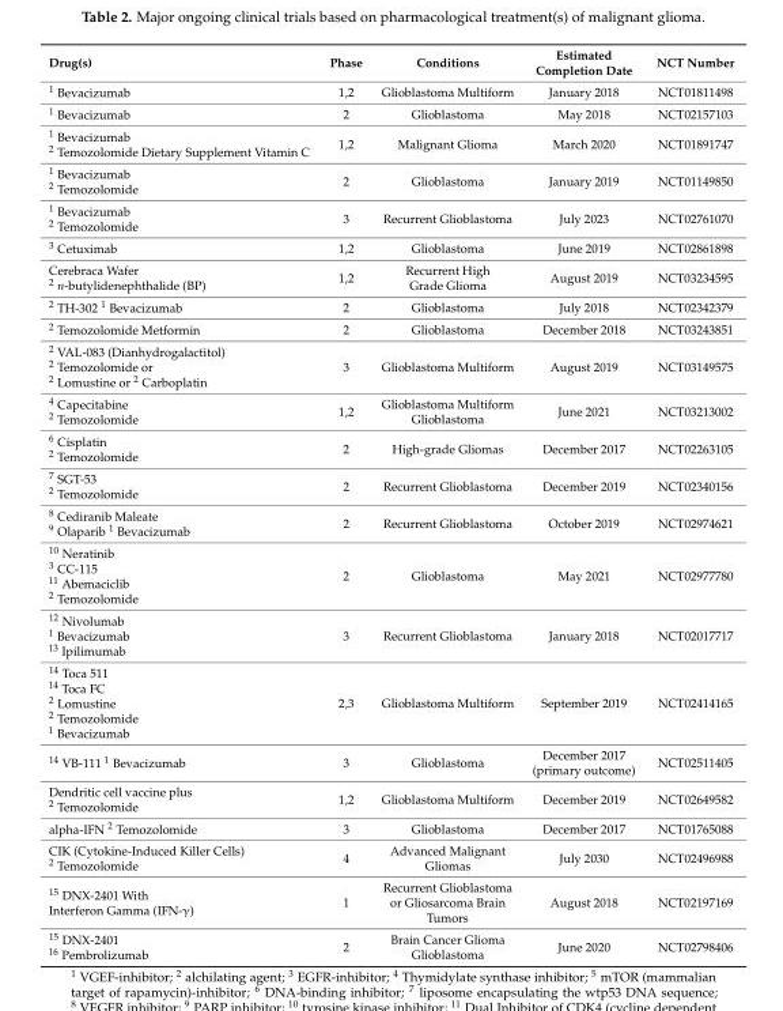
<table><thead><tr><td>Drug(s)</td><td>Phase</td><td>Conditions</td><td>Estimated Completion Date</td><td>NCT Number</td></tr></thead><tbody><tr><td><sup>1</sup> Bevacizumab</td><td>1,2</td><td>Glioblastoma Multiform</td><td>January 2018</td><td>NCT01811498</td></tr><tr><td><sup>1</sup> Bevacizumab</td><td>2</td><td>Glioblastoma</td><td>May 2018</td><td>NCT02157103</td></tr><tr><td><sup>1</sup> Bevacizumab <sup>2</sup> Temozolomide Dietary Supplement Vitamin C</td><td>1,2</td><td>Malignant Glioma</td><td>March 2020</td><td>NCT01891747</td></tr><tr><td><sup>1</sup> Bevacizumab <sup>2</sup> Temozolomide</td><td>2</td><td>Glioblastoma</td><td>January 2019</td><td>NCT01149850</td></tr><tr><td><sup>1</sup> Bevacizumab <sup>2</sup> Temozolomide</td><td>3</td><td>Recurrent Glioblastoma</td><td>July 2023</td><td>NCT02761070</td></tr><tr><td><sup>3</sup> Cetuximab</td><td>1,2</td><td>Glioblastoma</td><td>June 2019</td><td>NCT02861898</td></tr><tr><td>Cerebraca Wafer <sup>2</sup> n-butylidenephthalide (BP)</td><td>1,2</td><td>Recurrent High Grade Glioma</td><td>August 2019</td><td>NCT03234595</td></tr><tr><td><sup>2</sup> TH-302 <sup>1</sup> Bevacizumab</td><td>2</td><td>Glioblastoma</td><td>July 2018</td><td>NCT02342379</td></tr><tr><td><sup>2</sup> Temozolomide Metformin</td><td>2</td><td>Glioblastoma</td><td>December 2018</td><td>NCT03243851</td></tr><tr><td><sup>2</sup> VAL-083 (Dianhydrogalactitol) <sup>2</sup> Temozolomide or <sup>2</sup> Lomustine or <sup>2</sup> Carboplatin</td><td>3</td><td>Glioblastoma Multiform</td><td>August 2019</td><td>NCT03149575</td></tr><tr><td><sup>4</sup> Capecitabine <sup>2</sup> Temozolomide</td><td>1,2</td><td>Glioblastoma Multiform Glioblastoma</td><td>June 2021</td><td>NCT03213002</td></tr><tr><td><sup>6</sup> Cisplatin <sup>2</sup> Temozolomide</td><td>2</td><td>High-grade Gliomas</td><td>December 2017</td><td>NCT02263105</td></tr><tr><td><sup>7</sup> SGT-53 <sup>2</sup> Temozolomide</td><td>2</td><td>Recurrent Glioblastoma</td><td>December 2019</td><td>NCT02340156</td></tr><tr><td><sup>8</sup> Cediranib Maleate <sup>9</sup> Olaparib <sup>1</sup> Bevacizumab</td><td>2</td><td>Recurrent Glioblastoma</td><td>October 2019</td><td>NCT02974621</td></tr><tr><td><sup>10</sup> Neratinib <sup>3</sup> CC-115 <sup>11</sup> Abemaciclib <sup>2</sup> Temozolomide</td><td>2</td><td>Glioblastoma</td><td>May 2021</td><td>NCT02977780</td></tr><tr><td><sup>12</sup> Nivolumab <sup>1</sup> Bevacizumab <sup>13</sup> Ipilimumab</td><td>3</td><td>Recurrent Glioblastoma</td><td>January 2018</td><td>NCT02017717</td></tr><tr><td><sup>14</sup> Toca 511 <sup>14</sup> Toca FC <sup>2</sup> Lomustine <sup>2</sup> Temozolomide <sup>1</sup> Bevacizumab</td><td>2,3</td><td>Glioblastoma Multiform</td><td>September 2019</td><td>NCT02414165</td></tr><tr><td><sup>14</sup> VB-111 <sup>1</sup> Bevacizumab</td><td>3</td><td>Glioblastoma</td><td>December 2017 (primary outcome)</td><td>NCT02511405</td></tr><tr><td>Dendritic cell vaccine plus <sup>2</sup> Temozolomide</td><td>1,2</td><td>Glioblastoma Multiform</td><td>December 2019</td><td>NCT02649582</td></tr><tr><td>alpha-IFN <sup>2</sup> Temozolomide</td><td>3</td><td>Glioblastoma</td><td>December 2017</td><td>NCT01765088</td></tr><tr><td>CIK (Cytokine-Induced Killer Cells) <sup>2</sup> Temozolomide</td><td>4</td><td>Advanced Malignant Gliomas</td><td>July 2030</td><td>NCT02496988</td></tr><tr><td><sup>15</sup> DNX-2401 With Interferon Gamma (IFN-γ)</td><td>1</td><td>Recurrent Glioblastoma or Gliosarcoma Brain Tumors</td><td>August 2018</td><td>NCT02197169</td></tr><tr><td><sup>15</sup> DNX-2401 <sup>16</sup> Pembrolizumab</td><td>2</td><td>Brain Cancer Glioma Glioblastoma</td><td>June 2020</td><td>NCT02798406</td></tr></tbody></table>